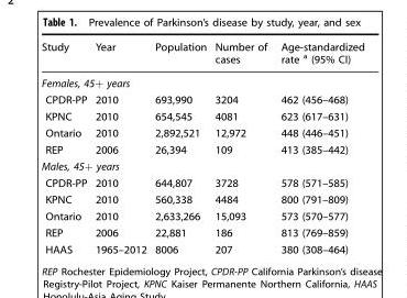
<table><thead><tr><td>Study</td><td>Year</td><td>Population</td><td>Number of cases</td><td>Age-standardized rate <sup>a</sup> (95% CI)</td></tr></thead><tbody><tr><td colspan="5">Females, 45+ years</td></tr><tr><td>CPDR-PP</td><td>2010</td><td>693,990</td><td>3204</td><td>462 (456–468)</td></tr><tr><td>KPNC</td><td>2010</td><td>654,545</td><td>4081</td><td>623 (617–631)</td></tr><tr><td>Ontario</td><td>2010</td><td>2,892,521</td><td>12,972</td><td>448 (446–451)</td></tr><tr><td>REP</td><td>2006</td><td>26,394</td><td>109</td><td>413 (385–442)</td></tr><tr><td colspan="5">Males, 45+ years</td></tr><tr><td>CPDR-PP</td><td>2010</td><td>644,807</td><td>3728</td><td>578 (571–585)</td></tr><tr><td>KPNC</td><td>2010</td><td>560,338</td><td>4484</td><td>800 (791–809)</td></tr><tr><td>Ontario</td><td>2010</td><td>2,633,266</td><td>15,093</td><td>573 (570–577)</td></tr><tr><td>REP</td><td>2006</td><td>22,881</td><td>186</td><td>813 (769–859)</td></tr><tr><td>HAAS</td><td>1965–2012</td><td>8006</td><td>207</td><td>380 (308–464)</td></tr></tbody></table>